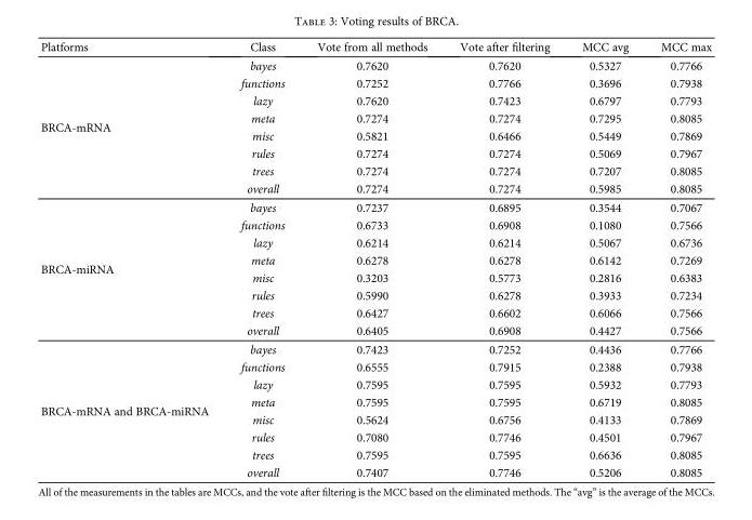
<table><thead><tr><td>Platforms</td><td>Class</td><td>Vote from all methods</td><td>Vote after filtering</td><td>MCC avg</td><td>MCC max</td></tr></thead><tbody><tr><td rowspan="8">BRCA-mRNA</td><td>bayes</td><td>0.7620</td><td>0.7620</td><td>0.5327</td><td>0.7766</td></tr><tr><td>functions</td><td>0.7252</td><td>0.7766</td><td>0.3696</td><td>0.7938</td></tr><tr><td>lazy</td><td>0.7620</td><td>0.7423</td><td>0.6797</td><td>0.7793</td></tr><tr><td>meta</td><td>0.7274</td><td>0.7274</td><td>0.7295</td><td>0.8085</td></tr><tr><td>misc</td><td>0.5821</td><td>0.6466</td><td>0.5449</td><td>0.7869</td></tr><tr><td>rules</td><td>0.7274</td><td>0.7274</td><td>0.5069</td><td>0.7967</td></tr><tr><td>trees</td><td>0.7274</td><td>0.7274</td><td>0.7207</td><td>0.8085</td></tr><tr><td>overall</td><td>0.7274</td><td>0.7274</td><td>0.5985</td><td>0.8085</td></tr><tr><td rowspan="8">BRCA-miRNA</td><td>bayes</td><td>0.7237</td><td>0.6895</td><td>0.3544</td><td>0.7067</td></tr><tr><td>functions</td><td>0.6733</td><td>0.6908</td><td>0.1080</td><td>0.7566</td></tr><tr><td>lazy</td><td>0.6214</td><td>0.6214</td><td>0.5067</td><td>0.6736</td></tr><tr><td>meta</td><td>0.6278</td><td>0.6278</td><td>0.6142</td><td>0.7269</td></tr><tr><td>misc</td><td>0.3203</td><td>0.5773</td><td>0.2816</td><td>0.6383</td></tr><tr><td>rules</td><td>0.5990</td><td>0.6278</td><td>0.3933</td><td>0.7234</td></tr><tr><td>trees</td><td>0.6427</td><td>0.6602</td><td>0.6066</td><td>0.7566</td></tr><tr><td>overall</td><td>0.6405</td><td>0.6908</td><td>0.4427</td><td>0.7566</td></tr><tr><td rowspan="8">BRCA-mRNA and BRCA-miRNA</td><td>bayes</td><td>0.7423</td><td>0.7252</td><td>0.4436</td><td>0.7766</td></tr><tr><td>functions</td><td>0.6555</td><td>0.7915</td><td>0.2388</td><td>0.7938</td></tr><tr><td>lazy</td><td>0.7595</td><td>0.7595</td><td>0.5932</td><td>0.7793</td></tr><tr><td>meta</td><td>0.7595</td><td>0.7595</td><td>0.6719</td><td>0.8085</td></tr><tr><td>misc</td><td>0.5624</td><td>0.6756</td><td>0.4133</td><td>0.7869</td></tr><tr><td>rules</td><td>0.7080</td><td>0.7746</td><td>0.4501</td><td>0.7967</td></tr><tr><td>trees</td><td>0.7595</td><td>0.7595</td><td>0.6636</td><td>0.8085</td></tr><tr><td>overall</td><td>0.7407</td><td>0.7746</td><td>0.5206</td><td>0.8085</td></tr></tbody></table>